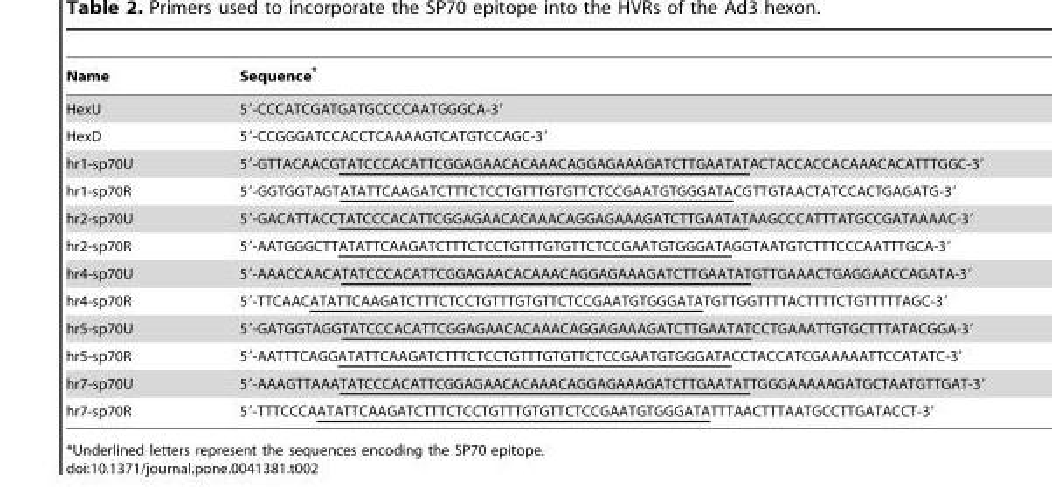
<table><thead><tr><td>Name</td><td>Sequence*</td></tr></thead><tbody><tr><td>HexU</td><td>5′-CCCATCGATGATGCCCCAATGGGCA-3′</td></tr><tr><td>HexD</td><td>5′-CCGGGATCCACCTCAAAAGTCATGTCCAGC-3′</td></tr><tr><td>hr1-sp70U</td><td>5′-GTTACAACGTATCCCACATTCGGAGAACACAAACAGGAGAAAGATCTTGAATATACTACCACCACAAACACATTTGGC-3′</td></tr><tr><td>hr1-sp70R</td><td>5′-GGTGGTAGTATATTCAAGATCTTTCTCCTGTTTGTGTTCTCCGAATGTGGGATACGTTGTAACTATCCACTGAGATG-3′</td></tr><tr><td>hr2-sp70U</td><td>5′-GACATTACCTATCCCACATTCGGAGAACACAAACAGGAGAAAGATCTTGAATATAAGCCCATTTATGCCGATAAAAC-3′</td></tr><tr><td>hr2-sp70R</td><td>5′-AATGGGCTTATATTCAAGATCTTTCTCCTGTTTGTGTTCTCCGAATGTGGGATAGGTAATGTCTTTCCCAATTTGCA-3′</td></tr><tr><td>hr4-sp70U</td><td>5′-AAACCAACATATCCCACATTCGGAGAACACAAACAGGAGAAAGATCTTGAATATGTTGAAACTGAGGAACCAGATA-3′</td></tr><tr><td>hr4-sp70R</td><td>5′-TTCAACATATTCAAGATCTTTCTCCTGTTTGTGTTCTCCGAATGTGGGATATGTTGGTTTTACTTTTCTGTTTTTAGC-3′</td></tr><tr><td>hr5-sp70U</td><td>5′-GATGGTAGGTATCCCACATTCGGAGAACACAAACAGGAGAAAGATCTTGAATATCCTGAAATTGTGCTTTATACGGA-3′</td></tr><tr><td>hr5-sp70R</td><td>5′-AATTTCAGGATATTCAAGATCTTTCTCCTGTTTGTGTTCTCCGAATGTGGGATACCTACCATCGAAAAATTCCATATC-3′</td></tr><tr><td>hr7-sp70U</td><td>5′-AAAGTTAAATATCCCACATTCGGAGAACACAAACAGGAGAAAGATCTTGAATATTGGGAAAAAGATGCTAATGTTGAT-3′</td></tr><tr><td>hr7-sp70R</td><td>5′-TTTCCCAATATTCAAGATCTTTCTCCTGTTTGTGTTCTCCGAATGTGGGATATTTAACTTTAATGCCTTGATACCT-3′</td></tr></tbody></table>